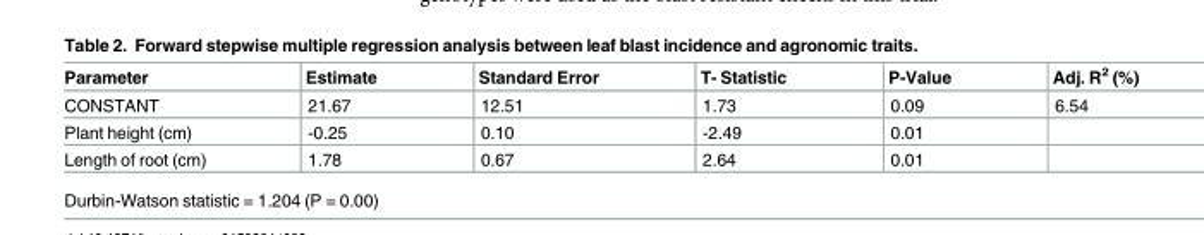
<table><thead><tr><td>Parameter</td><td>Estimate</td><td>Standard Error</td><td>T- Statistic</td><td>P-Value</td><td>Adj. R<sup>2</sup> (%)</td></tr></thead><tbody><tr><td>CONSTANT</td><td>21.67</td><td>12.51</td><td>1.73</td><td>0.09</td><td>6.54</td></tr><tr><td>Plant height (cm)</td><td>-0.25</td><td>0.10</td><td>-2.49</td><td>0.01</td><td></td></tr><tr><td>Length of root (cm)</td><td>1.78</td><td>0.67</td><td>2.64</td><td>0.01</td><td></td></tr></tbody></table>